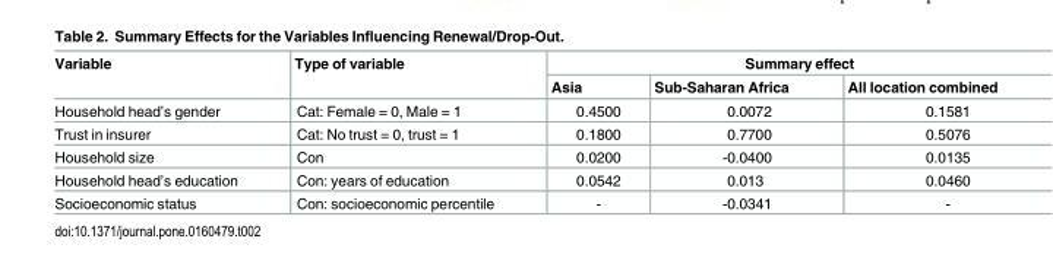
<table><thead><tr><td rowspan="2">Variable</td><td rowspan="2">Type of variable</td><td colspan="3">Summary effect</td></tr><tr><td>Asia</td><td>Sub-Saharan Africa</td><td>All location combined</td></tr></thead><tbody><tr><td>Household head’s gender</td><td>Cat: Female = 0, Male = 1</td><td>0.4500</td><td>0.0072</td><td>0.1581</td></tr><tr><td>Trust in insurer</td><td>Cat: No trust = 0, trust = 1</td><td>0.1800</td><td>0.7700</td><td>0.5076</td></tr><tr><td>Household size</td><td>Con</td><td>0.0200</td><td>-0.0400</td><td>0.0135</td></tr><tr><td>Household head’s education</td><td>Con: years of education</td><td>0.0542</td><td>0.013</td><td>0.0460</td></tr><tr><td>Socioeconomic status</td><td>Con: socioeconomic percentile</td><td>-</td><td>-0.0341</td><td>-</td></tr></tbody></table>